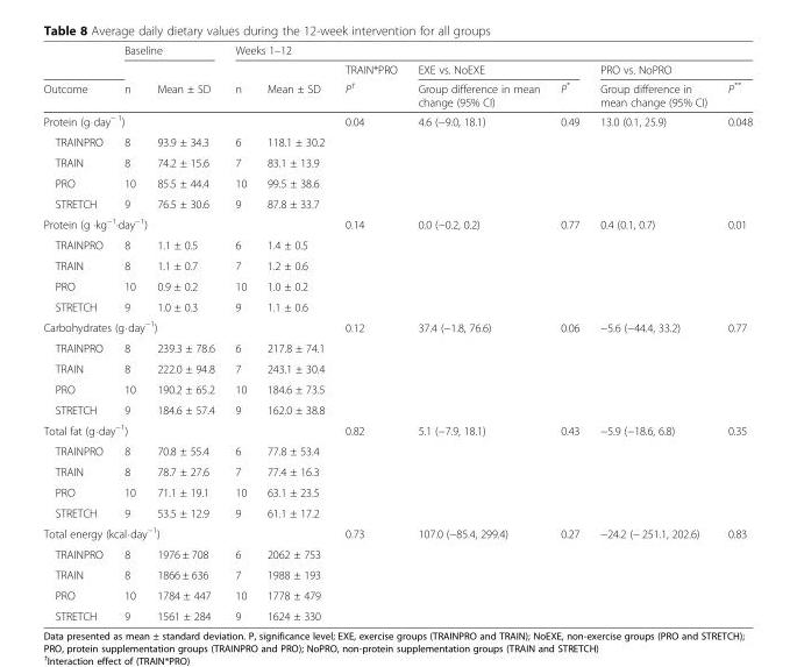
<table><thead><tr><td rowspan="3">Outcome</td><td colspan="2">Baseline</td><td colspan="7">Weeks 1–12</td></tr><tr><td rowspan="2">n</td><td rowspan="2">Mean ± SD</td><td rowspan="2">n</td><td rowspan="2">Mean ± SD</td><td rowspan="2">TRAIN*PRO P†</td><td colspan="2">EXE vs. NoEXE</td><td colspan="2">PRO vs. NoPRO</td></tr><tr><td>Group difference in mean change (95% CI)</td><td>P*</td><td>Group difference in mean change (95% CI)</td><td>P**</td></tr></thead><tbody><tr><td colspan="2">Protein (g⋅day<sup>− 1</sup>)</td><td></td><td></td><td></td><td>0.04</td><td>4.6 (−9.0, 18.1)</td><td>0.49</td><td>13.0 (0.1, 25.9)</td><td>0.048</td></tr><tr><td>TRAINPRO</td><td>8</td><td>93.9 ± 34.3</td><td>6</td><td>118.1 ± 30.2</td><td></td><td></td><td></td><td></td><td></td></tr><tr><td>TRAIN</td><td>8</td><td>74.2 ± 15.6</td><td>7</td><td>83.1 ± 13.9</td><td></td><td></td><td></td><td></td><td></td></tr><tr><td>PRO</td><td>10</td><td>85.5 ± 44.4</td><td>10</td><td>99.5 ± 38.6</td><td></td><td></td><td></td><td></td><td></td></tr><tr><td>STRETCH</td><td>9</td><td>76.5 ± 30.6</td><td>9</td><td>87.8 ± 33.7</td><td></td><td></td><td></td><td></td><td></td></tr><tr><td colspan="3">Protein (g ·kg<sup>−1</sup>·day<sup>−1</sup>)</td><td></td><td></td><td>0.14</td><td>0.0 (−0.2, 0.2)</td><td>0.77</td><td>0.4 (0.1, 0.7)</td><td>0.01</td></tr><tr><td>TRAINPRO</td><td>8</td><td>1.1 ± 0.5</td><td>6</td><td>1.4 ± 0.5</td><td></td><td></td><td></td><td></td><td></td></tr><tr><td>TRAIN</td><td>8</td><td>1.1 ± 0.7</td><td>7</td><td>1.2 ± 0.6</td><td></td><td></td><td></td><td></td><td></td></tr><tr><td>PRO</td><td>10</td><td>0.9 ± 0.2</td><td>10</td><td>1.0 ± 0.2</td><td></td><td></td><td></td><td></td><td></td></tr><tr><td>STRETCH</td><td>9</td><td>1.0 ± 0.3</td><td>9</td><td>1.1 ± 0.6</td><td></td><td></td><td></td><td></td><td></td></tr><tr><td colspan="3">Carbohydrates (g⋅day<sup>−1</sup>)</td><td></td><td></td><td>0.12</td><td>37.4 (−1.8, 76.6)</td><td>0.06</td><td>−5.6 (−44.4, 33.2)</td><td>0.77</td></tr><tr><td>TRAINPRO</td><td>8</td><td>239.3 ± 78.6</td><td>6</td><td>217.8 ± 74.1</td><td></td><td></td><td></td><td></td><td></td></tr><tr><td>TRAIN</td><td>8</td><td>222.0 ± 94.8</td><td>7</td><td>243.1 ± 30.4</td><td></td><td></td><td></td><td></td><td></td></tr><tr><td>PRO</td><td>10</td><td>190.2 ± 65.2</td><td>10</td><td>184.6 ± 73.5</td><td></td><td></td><td></td><td></td><td></td></tr><tr><td>STRETCH</td><td>9</td><td>184.6 ± 57.4</td><td>9</td><td>162.0 ± 38.8</td><td></td><td></td><td></td><td></td><td></td></tr><tr><td colspan="3">Total fat (g⋅day<sup>−1</sup>)</td><td></td><td></td><td>0.82</td><td>5.1 (−7.9, 18.1)</td><td>0.43</td><td>−5.9 (−18.6, 6.8)</td><td>0.35</td></tr><tr><td>TRAINPRO</td><td>8</td><td>70.8 ± 55.4</td><td>6</td><td>77.8 ± 53.4</td><td></td><td></td><td></td><td></td><td></td></tr><tr><td>TRAIN</td><td>8</td><td>78.7 ± 27.6</td><td>7</td><td>77.4 ± 16.3</td><td></td><td></td><td></td><td></td><td></td></tr><tr><td>PRO</td><td>10</td><td>71.1 ± 19.1</td><td>10</td><td>63.1 ± 23.5</td><td></td><td></td><td></td><td></td><td></td></tr><tr><td>STRETCH</td><td>9</td><td>53.5 ± 12.9</td><td>9</td><td>61.1 ± 17.2</td><td></td><td></td><td></td><td></td><td></td></tr><tr><td colspan="3">Total energy (kcal⋅day<sup>−1</sup>)</td><td></td><td></td><td>0.73</td><td>107.0 (−85.4, 299.4)</td><td>0.27</td><td>−24.2 (− 251.1, 202.6)</td><td>0.83</td></tr><tr><td>TRAINPRO</td><td>8</td><td>1976 ± 708</td><td>6</td><td>2062 ± 753</td><td></td><td></td><td></td><td></td><td></td></tr><tr><td>TRAIN</td><td>8</td><td>1866 ± 636</td><td>7</td><td>1988 ± 193</td><td></td><td></td><td></td><td></td><td></td></tr><tr><td>PRO</td><td>10</td><td>1784 ± 447</td><td>10</td><td>1778 ± 479</td><td></td><td></td><td></td><td></td><td></td></tr><tr><td>STRETCH</td><td>9</td><td>1561 ± 284</td><td>9</td><td>1624 ± 330</td><td></td><td></td><td></td><td></td><td></td></tr></tbody></table>